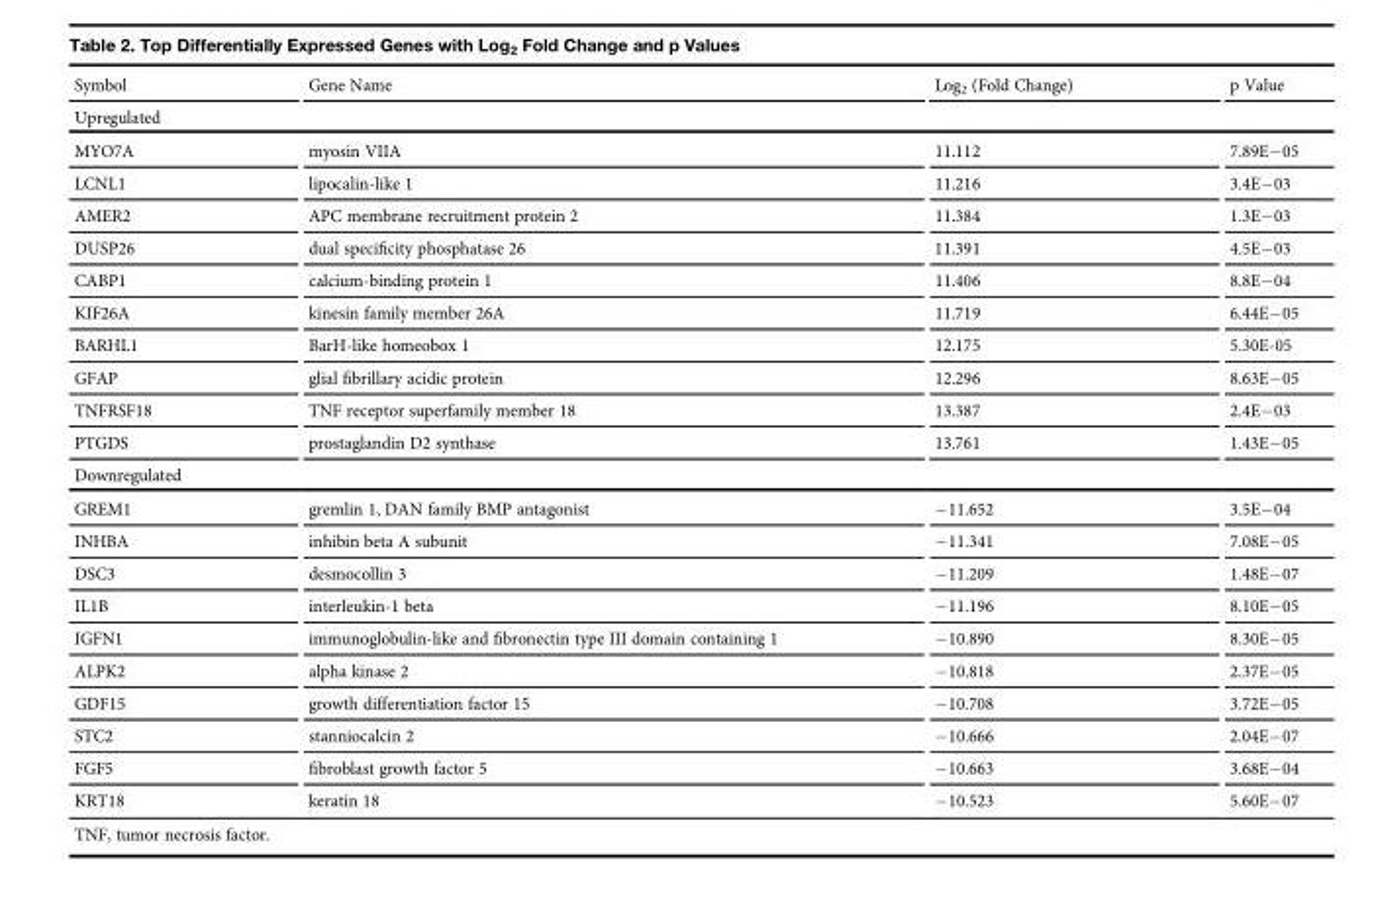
<table><thead><tr><td>Symbol</td><td>Gene Name</td><td>Log<sub>2</sub> (Fold Change)</td><td>p Value</td></tr></thead><tbody><tr><td colspan="4">Upregulated</td></tr><tr><td>MYO7A</td><td>myosin VIIA</td><td>11.112</td><td>7.89E−05</td></tr><tr><td>LCNL1</td><td>lipocalin-like 1</td><td>11.216</td><td>3.4E−03</td></tr><tr><td>AMER2</td><td>APC membrane recruitment protein 2</td><td>11.384</td><td>1.3E−03</td></tr><tr><td>DUSP26</td><td>dual specificity phosphatase 26</td><td>11.391</td><td>4.5E−03</td></tr><tr><td>CABP1</td><td>calcium-binding protein 1</td><td>11.406</td><td>8.8E−04</td></tr><tr><td>KIF26A</td><td>kinesin family member 26A</td><td>11.719</td><td>6.44E−05</td></tr><tr><td>BARHL1</td><td>BarH-like homeobox 1</td><td>12.175</td><td>5.30E-05</td></tr><tr><td>GFAP</td><td>glial fibrillary acidic protein</td><td>12.296</td><td>8.63E−05</td></tr><tr><td>TNFRSF18</td><td>TNF receptor superfamily member 18</td><td>13.387</td><td>2.4E−03</td></tr><tr><td>PTGDS</td><td>prostaglandin D2 synthase</td><td>13.761</td><td>1.43E−05</td></tr><tr><td colspan="4">Downregulated</td></tr><tr><td>GREM1</td><td>gremlin 1, DAN family BMP antagonist</td><td>−11.652</td><td>3.5E−04</td></tr><tr><td>INHBA</td><td>inhibin beta A subunit</td><td>−11.341</td><td>7.08E−05</td></tr><tr><td>DSC3</td><td>desmocollin 3</td><td>−11.209</td><td>1.48E−07</td></tr><tr><td>IL1B</td><td>interleukin-1 beta</td><td>−11.196</td><td>8.10E−05</td></tr><tr><td>IGFN1</td><td>immunoglobulin-like and fibronectin type III domain containing 1</td><td>−10.890</td><td>8.30E−05</td></tr><tr><td>ALPK2</td><td>alpha kinase 2</td><td>−10.818</td><td>2.37E−05</td></tr><tr><td>GDF15</td><td>growth differentiation factor 15</td><td>−10.708</td><td>3.72E−05</td></tr><tr><td>STC2</td><td>stanniocalcin 2</td><td>−10.666</td><td>2.04E−07</td></tr><tr><td>FGF5</td><td>fibroblast growth factor 5</td><td>−10.663</td><td>3.68E−04</td></tr><tr><td>KRT18</td><td>keratin 18</td><td>−10.523</td><td>5.60E−07</td></tr></tbody></table>